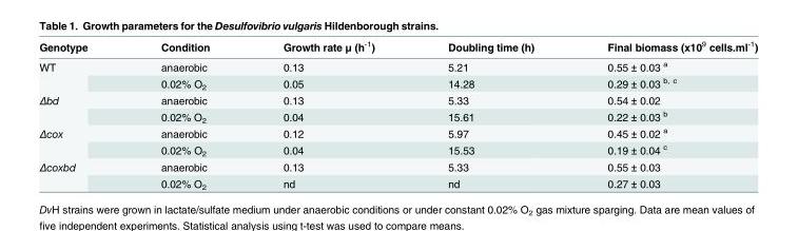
<table><thead><tr><td>Genotype</td><td>Condition</td><td>Growth rate μ (h-1)</td><td>Doubling time (h)</td><td>Final biomass (x109 cells.ml-1)</td></tr></thead><tbody><tr><td rowspan="2">WT</td><td>anaerobic</td><td>0.13</td><td>5.21</td><td>0.55 ± 0.03 <sup>a</sup></td></tr><tr><td>0.02% O<sub>2</sub></td><td>0.05</td><td>14.28</td><td>0.29 ± 0.03 <sup>b, c</sup></td></tr><tr><td rowspan="2">Δbd</td><td>anaerobic</td><td>0.13</td><td>5.33</td><td>0.54 ± 0.02</td></tr><tr><td>0.02% O<sub>2</sub></td><td>0.04</td><td>15.61</td><td>0.22 ± 0.03 <sup>b</sup></td></tr><tr><td rowspan="2">Δcox</td><td>anaerobic</td><td>0.12</td><td>5.97</td><td>0.45 ± 0.02 <sup>a</sup></td></tr><tr><td>0.02% O<sub>2</sub></td><td>0.04</td><td>15.53</td><td>0.19 ± 0.04 <sup>c</sup></td></tr><tr><td rowspan="2">Δcoxbd</td><td>anaerobic</td><td>0.13</td><td>5.33</td><td>0.55 ± 0.03</td></tr><tr><td>0.02% O<sub>2</sub></td><td>nd</td><td>nd</td><td>0.27 ± 0.03</td></tr></tbody></table>